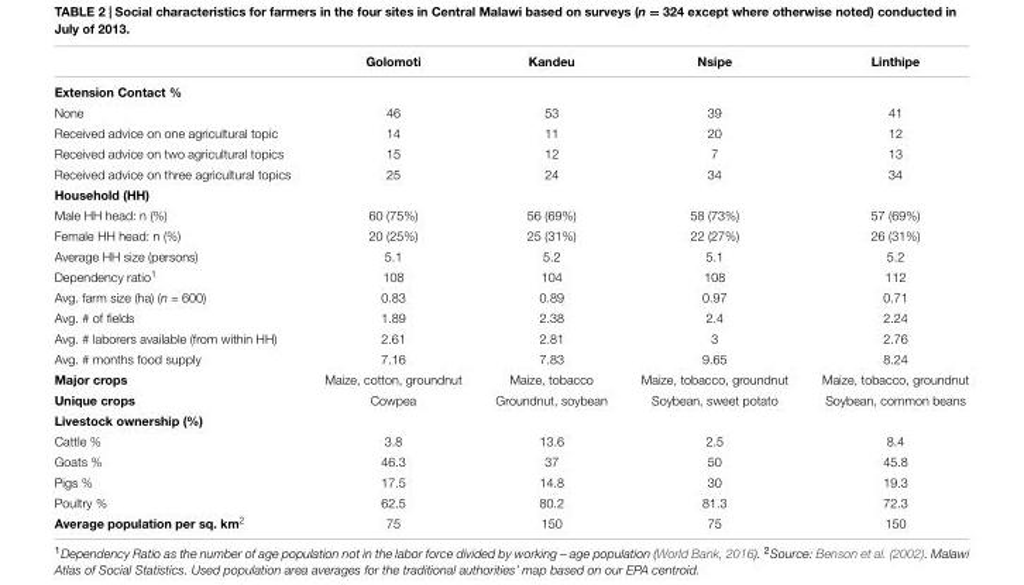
<table><thead><tr><td></td><td>Golomoti</td><td>Kandeu</td><td>Nsipe</td><td>Linthipe</td></tr></thead><tbody><tr><td colspan="5">Extension Contact %</td></tr><tr><td>None</td><td>46</td><td>53</td><td>39</td><td>41</td></tr><tr><td>Received advice on one agricultural topic</td><td>14</td><td>11</td><td>20</td><td>12</td></tr><tr><td>Received advice on two agricultural topics</td><td>15</td><td>12</td><td>7</td><td>13</td></tr><tr><td>Received advice on three agricultural topics</td><td>25</td><td>24</td><td>34</td><td>34</td></tr><tr><td colspan="5">Household (HH)</td></tr><tr><td>Male HH head: n (%)</td><td>60 (75%)</td><td>56 (69%)</td><td>58 (73%)</td><td>57 (69%)</td></tr><tr><td>Female HH head: n (%)</td><td>20 (25%)</td><td>25 (31%)</td><td>22 (27%)</td><td>26 (31%)</td></tr><tr><td>Average HH size (persons)</td><td>5.1</td><td>5.2</td><td>5.1</td><td>5.2</td></tr><tr><td>Dependency ratio<sup>1</sup></td><td>108</td><td>104</td><td>108</td><td>112</td></tr><tr><td>Avg. farm size (ha) (n = 600)</td><td>0.83</td><td>0.89</td><td>0.97</td><td>0.71</td></tr><tr><td>Avg. # of fields</td><td>1.89</td><td>2.38</td><td>2.4</td><td>2.24</td></tr><tr><td>Avg. # laborers available (from within HH)</td><td>2.61</td><td>2.81</td><td>3</td><td>2.76</td></tr><tr><td>Avg. # months food supply</td><td>7.16</td><td>7.83</td><td>9.65</td><td>8.24</td></tr><tr><td>Major crops</td><td>Maize, cotton, groundnut</td><td>Maize, tobacco</td><td>Maize, tobacco, groundnut</td><td>Maize, tobacco, groundnut</td></tr><tr><td>Unique crops</td><td>Cowpea</td><td>Groundnut, soybean</td><td>Soybean, sweet potato</td><td>Soybean, common beans</td></tr><tr><td colspan="5">Livestock ownership (%)</td></tr><tr><td>Cattle %</td><td>3.8</td><td>13.6</td><td>2.5</td><td>8.4</td></tr><tr><td>Goats %</td><td>46.3</td><td>37</td><td>50</td><td>45.8</td></tr><tr><td>Pigs %</td><td>17.5</td><td>14.8</td><td>30</td><td>19.3</td></tr><tr><td>Poultry %</td><td>62.5</td><td>80.2</td><td>81.3</td><td>72.3</td></tr><tr><td>Average population per sq. km<sup>2</sup></td><td>75</td><td>150</td><td>75</td><td>150</td></tr></tbody></table>